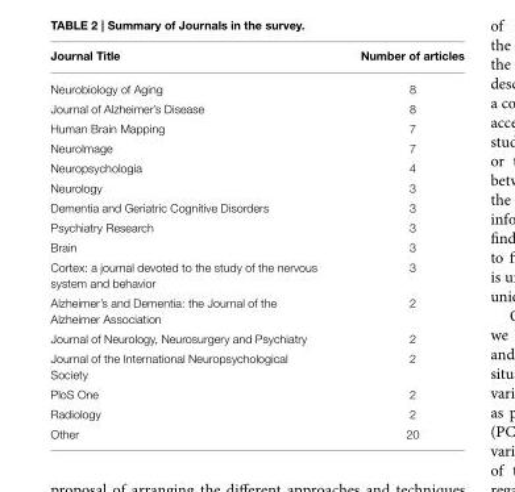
<table><thead><tr><td>Journal Title</td><td>Number of articles</td></tr></thead><tbody><tr><td>Neurobiology of Aging</td><td>8</td></tr><tr><td>Journal of Alzheimer’s Disease</td><td>8</td></tr><tr><td>Human Brain Mapping</td><td>7</td></tr><tr><td>NeuroImage</td><td>7</td></tr><tr><td>Neuropsychologia</td><td>4</td></tr><tr><td>Neurology</td><td>3</td></tr><tr><td>Dementia and Geriatric Cognitive Disorders</td><td>3</td></tr><tr><td>Psychiatry Research</td><td>3</td></tr><tr><td>Brain</td><td>3</td></tr><tr><td>Cortex: a journal devoted to the study of the nervous system and behavior</td><td>3</td></tr><tr><td>Alzheimer’s and Dementia: the Journal of the Alzheimer Association</td><td>2</td></tr><tr><td>Journal of Neurology, Neurosurgery and Psychiatry</td><td>2</td></tr><tr><td>Journal of the International Neuropsychological Society</td><td>2</td></tr><tr><td>PloS One</td><td>2</td></tr><tr><td>Radiology</td><td>2</td></tr><tr><td>Other</td><td>20</td></tr></tbody></table>